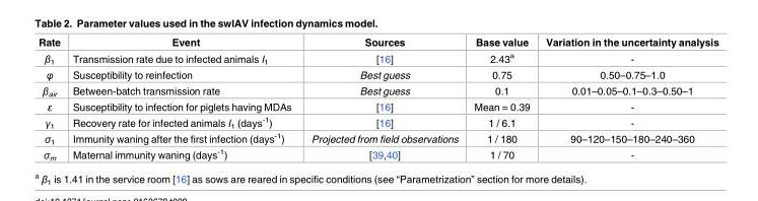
<table><thead><tr><td>Rate</td><td>Event</td><td>Sources</td><td>Base value</td><td>Variation in the uncertainty analysis</td></tr></thead><tbody><tr><td>β<sub>1</sub></td><td>Transmission rate due to infected animals I<sub>1</sub></td><td>[16]</td><td>2.43<sup>a</sup></td><td>-</td></tr><tr><td>φ</td><td>Susceptibility to reinfection</td><td>Best guess</td><td>0.75</td><td>0.50–0.75–1.0</td></tr><tr><td>β<sub>air</sub></td><td>Between-batch transmission rate</td><td>Best guess</td><td>0.1</td><td>0.01–0.05–0.1–0.3–0.50–1</td></tr><tr><td>ε</td><td>Susceptibility to infection for piglets having MDAs</td><td>[16]</td><td>Mean = 0.39</td><td>-</td></tr><tr><td>γ<sub>1</sub></td><td>Recovery rate for infected animals I<sub>1</sub> (days<sup>-1</sup>)</td><td>[16]</td><td>1 / 6.1</td><td>-</td></tr><tr><td>σ<sub>1</sub></td><td>Immunity waning after the first infection (days<sup>-1</sup>)</td><td>Projected from field observations</td><td>1 / 180</td><td>90–120–150–180–240–360</td></tr><tr><td>σ<sub>m</sub></td><td>Maternal immunity waning (days<sup>-1</sup>)</td><td>[39,40]</td><td>1 / 70</td><td>-</td></tr></tbody></table>